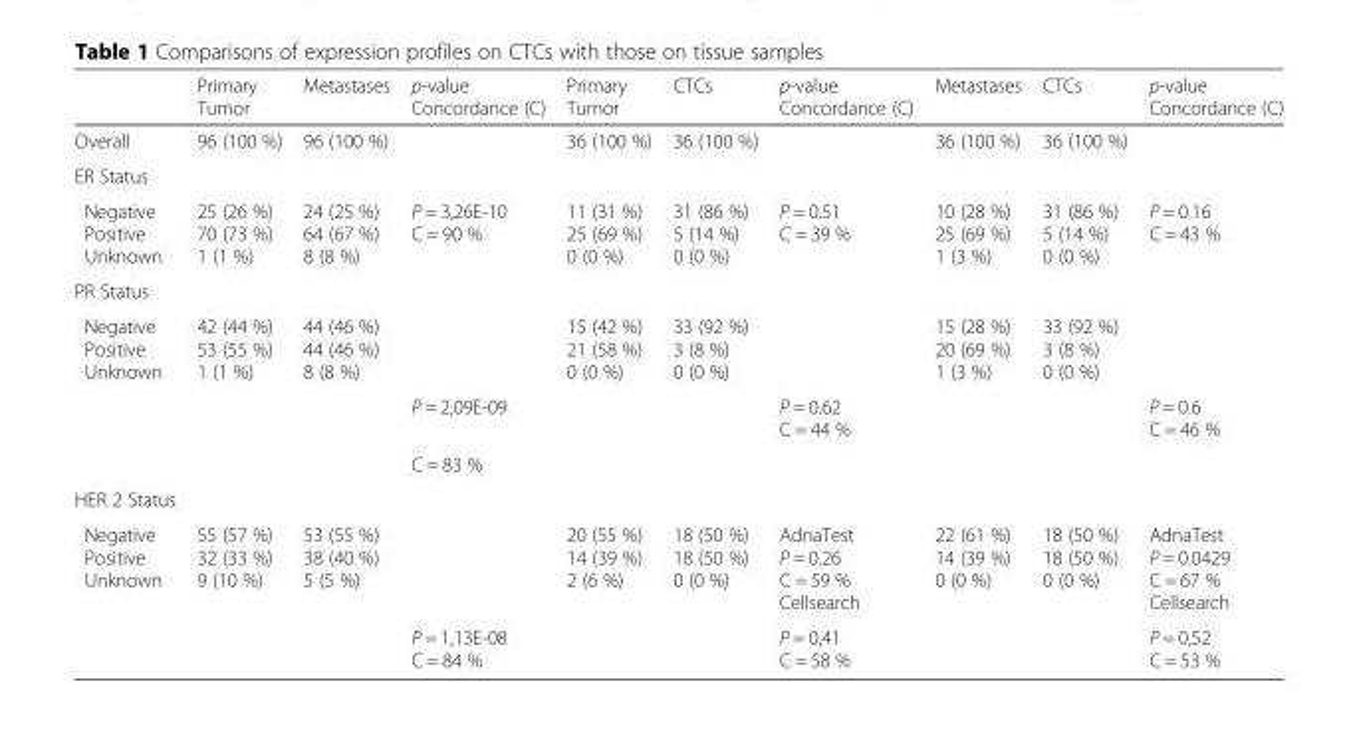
<table><thead><tr><td></td><td>Primary Tumor</td><td>Metastases</td><td>p-value Concordance (C)</td><td>Primary Tumor</td><td>CTCs</td><td>p-value Concordance (C)</td><td>Metastases</td><td>CTCs</td><td>p-value Concordance (C)</td></tr></thead><tbody><tr><td>Overall</td><td>96 (100 %)</td><td>96 (100 %)</td><td></td><td>36 (100 %)</td><td>36 (100 %)</td><td></td><td>36 (100 %)</td><td>36 (100 %)</td><td></td></tr><tr><td colspan="10">ER Status</td></tr><tr><td>Negative Positive Unknown</td><td>25 (26 %) 70 (73 %) 1 (1 %)</td><td>24 (25 %) 64 (67 %) 8 (8 %)</td><td>P = 3,26E-10 C = 90 %</td><td>11 (31 %) 25 (69 %) 0 (0 %)</td><td>31 (86 %) 5 (14 %) 0 (0 %)</td><td>P = 0.51 C = 39 %</td><td>10 (28 %) 25 (69 %) 1 (3 %)</td><td>31 (86 %) 5 (14 %) 0 (0 %)</td><td>P = 0.16 C = 43 %</td></tr><tr><td colspan="10">PR Status</td></tr><tr><td rowspan="3">Negative Positive Unknown</td><td>42 (44 %) 53 (55 %) 1 (1 %)</td><td>44 (46 %) 44 (46 %) 8 (8 %)</td><td></td><td>15 (42 %) 21 (58 %) 0 (0 %)</td><td>33 (92 %) 3 (8 %) 0 (0 %)</td><td></td><td>15 (28 %) 20 (69 %) 1 (3 %)</td><td>33 (92 %) 3 (8 %) 0 (0 %)</td><td></td></tr><tr><td rowspan="2"></td><td rowspan="2"></td><td>P = 2,09E-09</td><td></td><td></td><td>P = 0.62 C = 44 %</td><td></td><td></td><td>P = 0.6 C = 46 %</td></tr><tr><td>C = 83 %</td><td></td><td></td><td></td><td></td><td></td><td></td></tr><tr><td colspan="10">HER 2 Status</td></tr><tr><td rowspan="2">Negative Positive Unknown</td><td>55 (57 %) 32 (33 %) 9 (10 %)</td><td>53 (55 %) 38 (40 %) 5 (5 %)</td><td></td><td>20 (55 %) 14 (39 %) 2 (6 %)</td><td>18 (50 %) 18 (50 %) 0 (0 %)</td><td>AdnaTest P = 0.26 C = 59 % Cellsearch</td><td>22 (61 %) 14 (39 %) 0 (0 %)</td><td>18 (50 %) 18 (50 %) 0 (0 %)</td><td>AdnaTest P = 0.0429 C = 67 % Cellsearch</td></tr><tr><td></td><td></td><td>P = 1,13E-08 C = 84 %</td><td></td><td></td><td>P = 0,41 C = 58 %</td><td></td><td></td><td>P = 0,52 C = 53 %</td></tr></tbody></table>